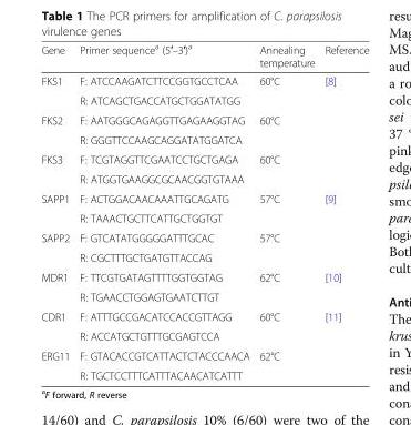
<table><thead><tr><td>Gene</td><td>Primer sequence<sup>a</sup> (5′–3′)<sup>a</sup></td><td>Annealing temperature</td><td>Reference</td></tr></thead><tbody><tr><td rowspan="2">FKS1</td><td>F: ATCCAAGATCTTCCGGTGCCTCAA</td><td rowspan="2">60°C</td><td rowspan="6">[8]</td></tr><tr><td>R: ATCAGCTGACCATGCTGGATATGG</td></tr><tr><td rowspan="2">FKS2</td><td>F: AATGGGCAGAGGTTGAGAAGGTAG</td><td rowspan="2">60°C</td></tr><tr><td>R: GGGTTCCAAGCAGGATATGGATCA</td></tr><tr><td rowspan="2">FKS3</td><td>F: TCGTAGGTTCGAATCCTGCTGAGA</td><td rowspan="2">60°C</td></tr><tr><td>R: ATGGTGAAGGCGCAACGGTGTAAA</td></tr><tr><td rowspan="2">SAPP1</td><td>F: ACTGGACAACAAATTGCAGATG</td><td rowspan="2">57°C</td><td rowspan="4">[9]</td></tr><tr><td>R: TAAACTGCTTCATTGCTGGTGT</td></tr><tr><td rowspan="2">SAPP2</td><td>F: GTCATATGGGGGATTTGCAC</td><td rowspan="2">57°C</td></tr><tr><td>R: CGCTTTGCTGATGTTACCAG</td></tr><tr><td rowspan="2">MDR1</td><td>F: TTCGTGATAGTTTTGGTGGTAG</td><td rowspan="2">62°C</td><td rowspan="2">[10]</td></tr><tr><td>R: TGAACCTGGAGTGAATCTTGT</td></tr><tr><td rowspan="2">CDR1</td><td>F: ATTTGCCGACATCCACCGTTAGG</td><td rowspan="2">60°C</td><td rowspan="4">[11]</td></tr><tr><td>R: ACCATGCTGTTTGCGAGTCCA</td></tr><tr><td rowspan="2">ERG11</td><td>F: GTACACCGTCATTACTCTACCCAACA</td><td rowspan="2">62°C</td></tr><tr><td>R: TGCTCCTTTCATTTACAACATCATTT</td></tr></tbody></table>